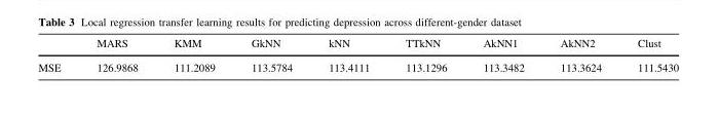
<table><thead><tr><td></td><td>MARS</td><td>KMM</td><td>GkNN</td><td>kNN</td><td>TTkNN</td><td>AkNN1</td><td>AkNN2</td><td>Clust</td></tr></thead><tbody><tr><td>MSE</td><td>126.9868</td><td>111.2089</td><td>113.5784</td><td>113.4111</td><td>113.1296</td><td>113.3482</td><td>113.3624</td><td>111.5430</td></tr></tbody></table>